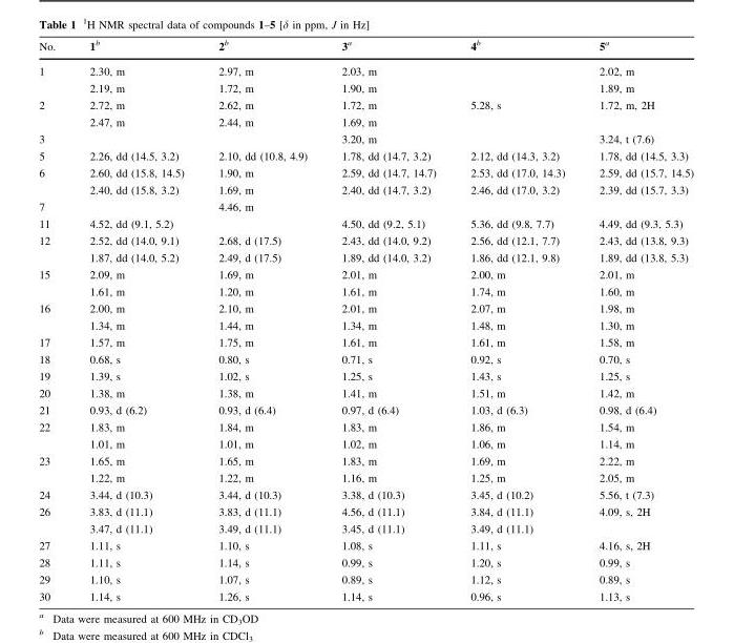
<table><thead><tr><td>No.</td><td>1<sup>b</sup></td><td>2<sup>b</sup></td><td>3<sup>a</sup></td><td>4<sup>b</sup></td><td>5<sup>a</sup></td></tr></thead><tbody><tr><td rowspan="2">1</td><td>2.30, m</td><td>2.97, m</td><td>2.03, m</td><td></td><td>2.02, m</td></tr><tr><td>2.19, m</td><td>1.72, m</td><td>1.90, m</td><td></td><td>1.89, m</td></tr><tr><td rowspan="2">2</td><td>2.72, m</td><td>2.62, m</td><td>1.72, m</td><td rowspan="2">5.28, s</td><td rowspan="2">1.72, m, 2H</td></tr><tr><td>2.47, m</td><td>2.44, m</td><td>1.69, m</td></tr><tr><td>3</td><td></td><td></td><td>3.20, m</td><td></td><td>3.24, t (7.6)</td></tr><tr><td>5</td><td>2.26, dd (14.5, 3.2)</td><td>2.10, dd (10.8, 4.9)</td><td>1.78, dd (14.7, 3.2)</td><td>2.12, dd (14.3, 3.2)</td><td>1.78, dd (14.5, 3.3)</td></tr><tr><td rowspan="2">6</td><td>2.60, dd (15.8, 14.5)</td><td>1.90, m</td><td>2.59, dd (14.7, 14.7)</td><td>2.53, dd (17.0, 14.3)</td><td>2.59, dd (15.7, 14.5)</td></tr><tr><td>2.40, dd (15.8, 3.2)</td><td>1.69, m</td><td>2.40, dd (14.7, 3.2)</td><td>2.46, dd (17.0, 3.2)</td><td>2.39, dd (15.7, 3.3)</td></tr><tr><td>7</td><td></td><td>4.46, m</td><td></td><td></td><td></td></tr><tr><td>11</td><td>4.52, dd (9.1, 5.2)</td><td></td><td>4.50, dd (9.2, 5.1)</td><td>5.36, dd (9.8, 7.7)</td><td>4.49, dd (9.3, 5.3)</td></tr><tr><td rowspan="2">12</td><td>2.52, dd (14.0, 9.1)</td><td>2.68, d (17.5)</td><td>2.43, dd (14.0, 9.2)</td><td>2.56, dd (12.1, 7.7)</td><td>2.43, dd (13.8, 9.3)</td></tr><tr><td>1.87, dd (14.0, 5.2)</td><td>2.49, d (17.5)</td><td>1.89, dd (14.0, 3.2)</td><td>1.86, dd (12.1, 9.8)</td><td>1.89, dd (13.8, 5.3)</td></tr><tr><td rowspan="2">15</td><td>2.09, m</td><td>1.69, m</td><td>2.01, m</td><td>2.00, m</td><td>2.01, m</td></tr><tr><td>1.61, m</td><td>1.20, m</td><td>1.61, m</td><td>1.74, m</td><td>1.60, m</td></tr><tr><td rowspan="2">16</td><td>2.00, m</td><td>2.10, m</td><td>2.01, m</td><td>2.07, m</td><td>1.98, m</td></tr><tr><td>1.34, m</td><td>1.44, m</td><td>1.34, m</td><td>1.48, m</td><td>1.30, m</td></tr><tr><td>17</td><td>1.57, m</td><td>1.75, m</td><td>1.61, m</td><td>1.61, m</td><td>1.58, m</td></tr><tr><td>18</td><td>0.68, s</td><td>0.80, s</td><td>0.71, s</td><td>0.92, s</td><td>0.70, s</td></tr><tr><td>19</td><td>1.39, s</td><td>1.02, s</td><td>1.25, s</td><td>1.43, s</td><td>1.25, s</td></tr><tr><td>20</td><td>1.38, m</td><td>1.38, m</td><td>1.41, m</td><td>1.51, m</td><td>1.42, m</td></tr><tr><td>21</td><td>0.93, d (6.2)</td><td>0.93, d (6.4)</td><td>0.97, d (6.4)</td><td>1.03, d (6.3)</td><td>0.98, d (6.4)</td></tr><tr><td rowspan="2">22</td><td>1.83, m</td><td>1.84, m</td><td>1.83, m</td><td>1.86, m</td><td>1.54, m</td></tr><tr><td>1.01, m</td><td>1.01, m</td><td>1.02, m</td><td>1.06, m</td><td>1.14, m</td></tr><tr><td rowspan="2">23</td><td>1.65, m</td><td>1.65, m</td><td>1.83, m</td><td>1.69, m</td><td>2.22, m</td></tr><tr><td>1.22, m</td><td>1.22, m</td><td>1.16, m</td><td>1.25, m</td><td>2.05, m</td></tr><tr><td>24</td><td>3.44, d (10.3)</td><td>3.44, d (10.3)</td><td>3.38, d (10.3)</td><td>3.45, d (10.2)</td><td>5.56, t (7.3)</td></tr><tr><td rowspan="2">26</td><td>3.83, d (11.1)</td><td>3.83, d (11.1)</td><td>4.56, d (11.1)</td><td>3.84, d (11.1)</td><td>4.09, s, 2H</td></tr><tr><td>3.47, d (11.1)</td><td>3.49, d (11.1)</td><td>3.45, d (11.1)</td><td>3.49, d (11.1)</td><td></td></tr><tr><td>27</td><td>1.11, s</td><td>1.10, s</td><td>1.08, s</td><td>1.11, s</td><td>4.16, s, 2H</td></tr><tr><td>28</td><td>1.11, s</td><td>1.14, s</td><td>0.99, s</td><td>1.20, s</td><td>0.99, s</td></tr><tr><td>29</td><td>1.10, s</td><td>1.07, s</td><td>0.89, s</td><td>1.12, s</td><td>0.89, s</td></tr><tr><td>30</td><td>1.14, s</td><td>1.26, s</td><td>1.14, s</td><td>0.96, s</td><td>1.13, s</td></tr></tbody></table>